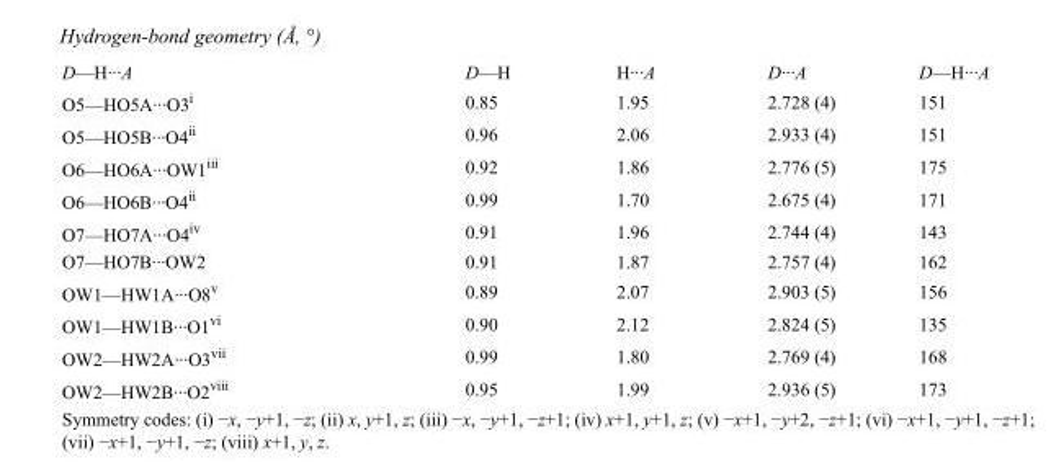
<table><tbody><tr><td>D—H···A</td><td>D—H</td><td>H···A</td><td>D···A</td><td>D—H···A</td></tr><tr><td>O5—HO5A···O3<sup>i</sup></td><td>0.85</td><td>1.95</td><td>2.728 (4)</td><td>151</td></tr><tr><td>O5—HO5B···O4<sup>ii</sup></td><td>0.96</td><td>2.06</td><td>2.933 (4)</td><td>151</td></tr><tr><td>O6—HO6A···OW1<sup>iii</sup></td><td>0.92</td><td>1.86</td><td>2.776 (5)</td><td>175</td></tr><tr><td>O6—HO6B···O4<sup>ii</sup></td><td>0.99</td><td>1.70</td><td>2.675 (4)</td><td>171</td></tr><tr><td>O7—HO7A···O4<sup>iv</sup></td><td>0.91</td><td>1.96</td><td>2.744 (4)</td><td>143</td></tr><tr><td>O7—HO7B···OW2</td><td>0.91</td><td>1.87</td><td>2.757 (4)</td><td>162</td></tr><tr><td>OW1—HW1A···O8<sup>v</sup></td><td>0.89</td><td>2.07</td><td>2.903 (5)</td><td>156</td></tr><tr><td>OW1—HW1B···O1<sup>vi</sup></td><td>0.90</td><td>2.12</td><td>2.824 (5)</td><td>135</td></tr><tr><td>OW2—HW2A···O3<sup>vii</sup></td><td>0.99</td><td>1.80</td><td>2.769 (4)</td><td>168</td></tr><tr><td>OW2—HW2B···O2<sup>viii</sup></td><td>0.95</td><td>1.99</td><td>2.936 (5)</td><td>173</td></tr></tbody></table>